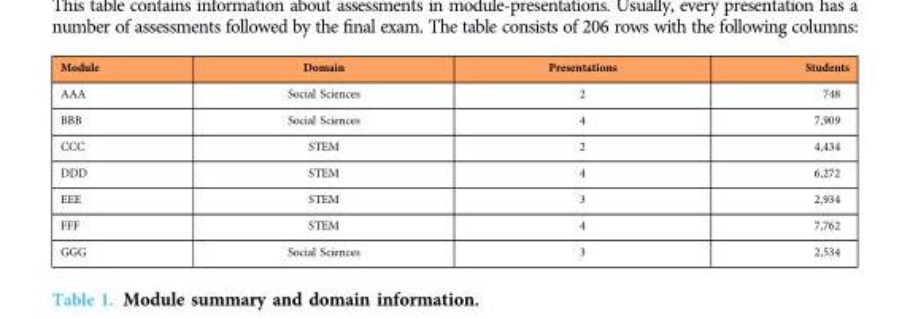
<table><thead><tr><td>Module</td><td>Domain</td><td>Presentations</td><td>Students</td></tr></thead><tbody><tr><td>AAA</td><td>Social Sciences</td><td>2</td><td>748</td></tr><tr><td>BBB</td><td>Social Sciences</td><td>4</td><td>7,909</td></tr><tr><td>CCC</td><td>STEM</td><td>2</td><td>4,434</td></tr><tr><td>DDD</td><td>STEM</td><td>4</td><td>6,272</td></tr><tr><td>EEE</td><td>STEM</td><td>3</td><td>2,934</td></tr><tr><td>FFF</td><td>STEM</td><td>4</td><td>7,762</td></tr><tr><td>GGG</td><td>Social Sciences</td><td>3</td><td>2,534</td></tr></tbody></table>